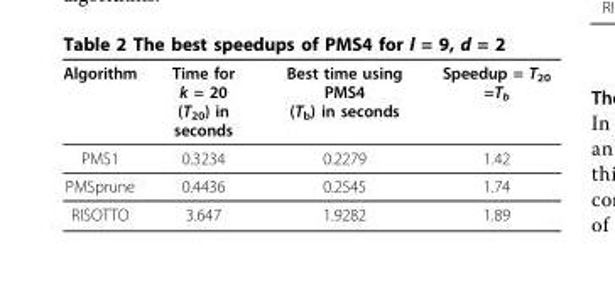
<table><thead><tr><td>Algorithm</td><td>Time for k = 20 (T<sub>20</sub>) in seconds</td><td>Best time using PMS4 (T<sub>b</sub>) in seconds</td><td>Speedup = T<sub>20</sub> =T<sub>b</sub></td></tr></thead><tbody><tr><td>PMS1</td><td>0.3234</td><td>0.2279</td><td>1.42</td></tr><tr><td>PMSprune</td><td>0.4436</td><td>0.2545</td><td>1.74</td></tr><tr><td>RISOTTO</td><td>3.647</td><td>1.9282</td><td>1.89</td></tr></tbody></table>